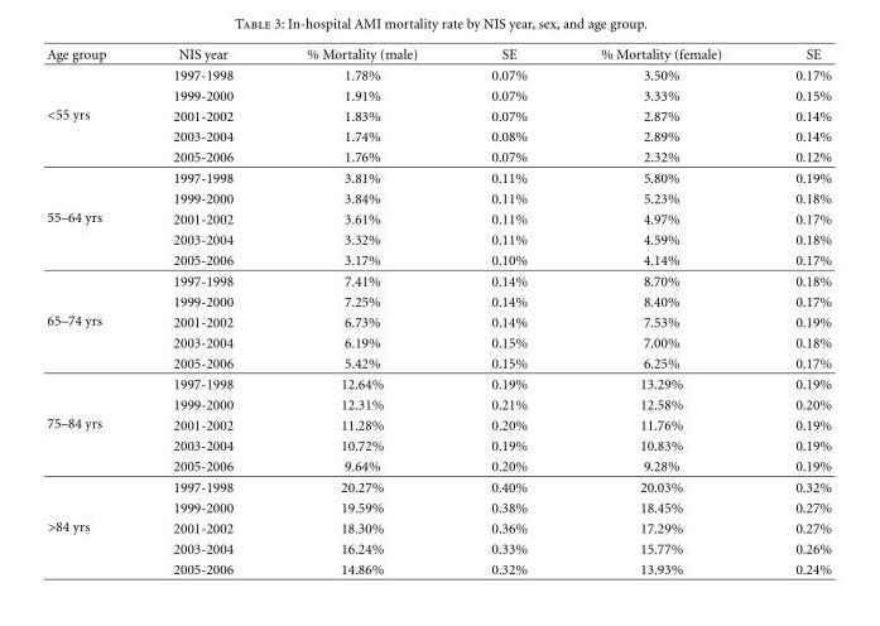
<table><thead><tr><td>Age group</td><td>NIS year</td><td>% Mortality (male)</td><td>SE</td><td>% Mortality (female)</td><td>SE</td></tr></thead><tbody><tr><td rowspan="5">&lt;55 yrs</td><td>1997-1998</td><td>1.78%</td><td>0.07%</td><td>3.50%</td><td>0.17%</td></tr><tr><td>1999-2000</td><td>1.91%</td><td>0.07%</td><td>3.33%</td><td>0.15%</td></tr><tr><td>2001-2002</td><td>1.83%</td><td>0.07%</td><td>2.87%</td><td>0.14%</td></tr><tr><td>2003-2004</td><td>1.74%</td><td>0.08%</td><td>2.89%</td><td>0.14%</td></tr><tr><td>2005-2006</td><td>1.76%</td><td>0.07%</td><td>2.32%</td><td>0.12%</td></tr><tr><td rowspan="5">55–64 yrs</td><td>1997-1998</td><td>3.81%</td><td>0.11%</td><td>5.80%</td><td>0.19%</td></tr><tr><td>1999-2000</td><td>3.84%</td><td>0.11%</td><td>5.23%</td><td>0.18%</td></tr><tr><td>2001-2002</td><td>3.61%</td><td>0.11%</td><td>4.97%</td><td>0.17%</td></tr><tr><td>2003-2004</td><td>3.32%</td><td>0.11%</td><td>4.59%</td><td>0.18%</td></tr><tr><td>2005-2006</td><td>3.17%</td><td>0.10%</td><td>4.14%</td><td>0.17%</td></tr><tr><td rowspan="5">65–74 yrs</td><td>1997-1998</td><td>7.41%</td><td>0.14%</td><td>8.70%</td><td>0.18%</td></tr><tr><td>1999-2000</td><td>7.25%</td><td>0.14%</td><td>8.40%</td><td>0.17%</td></tr><tr><td>2001-2002</td><td>6.73%</td><td>0.14%</td><td>7.53%</td><td>0.19%</td></tr><tr><td>2003-2004</td><td>6.19%</td><td>0.15%</td><td>7.00%</td><td>0.18%</td></tr><tr><td>2005-2006</td><td>5.42%</td><td>0.15%</td><td>6.25%</td><td>0.17%</td></tr><tr><td rowspan="5">75–84 yrs</td><td>1997-1998</td><td>12.64%</td><td>0.19%</td><td>13.29%</td><td>0.19%</td></tr><tr><td>1999-2000</td><td>12.31%</td><td>0.21%</td><td>12.58%</td><td>0.20%</td></tr><tr><td>2001-2002</td><td>11.28%</td><td>0.20%</td><td>11.76%</td><td>0.19%</td></tr><tr><td>2003-2004</td><td>10.72%</td><td>0.19%</td><td>10.83%</td><td>0.19%</td></tr><tr><td>2005-2006</td><td>9.64%</td><td>0.20%</td><td>9.28%</td><td>0.19%</td></tr><tr><td rowspan="5">&gt;84 yrs</td><td>1997-1998</td><td>20.27%</td><td>0.40%</td><td>20.03%</td><td>0.32%</td></tr><tr><td>1999-2000</td><td>19.59%</td><td>0.38%</td><td>18.45%</td><td>0.27%</td></tr><tr><td>2001-2002</td><td>18.30%</td><td>0.36%</td><td>17.29%</td><td>0.27%</td></tr><tr><td>2003-2004</td><td>16.24%</td><td>0.33%</td><td>15.77%</td><td>0.26%</td></tr><tr><td>2005-2006</td><td>14.86%</td><td>0.32%</td><td>13.93%</td><td>0.24%</td></tr></tbody></table>